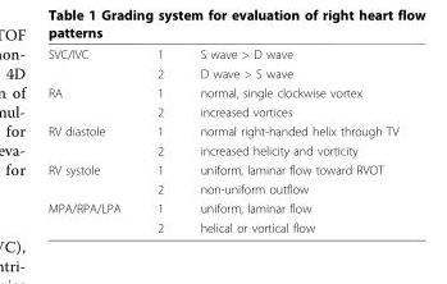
<table><tbody><tr><td rowspan="2">SVC/IVC</td><td>1</td><td>S wave &gt; D wave</td></tr><tr><td>2</td><td>D wave &gt; S wave</td></tr><tr><td rowspan="2">RA</td><td>1</td><td>normal, single clockwise vortex</td></tr><tr><td>2</td><td>increased vortices</td></tr><tr><td rowspan="2">RV diastole</td><td>1</td><td>normal right-handed helix through TV</td></tr><tr><td>2</td><td>increased helicity and vorticity</td></tr><tr><td rowspan="2">RV systole</td><td>1</td><td>uniform, laminar flow toward RVOT</td></tr><tr><td>2</td><td>non-uniform outflow</td></tr><tr><td rowspan="2">MPA/RPA/LPA</td><td>1</td><td>uniform, laminar flow</td></tr><tr><td>2</td><td>helical or vortical flow</td></tr></tbody></table>